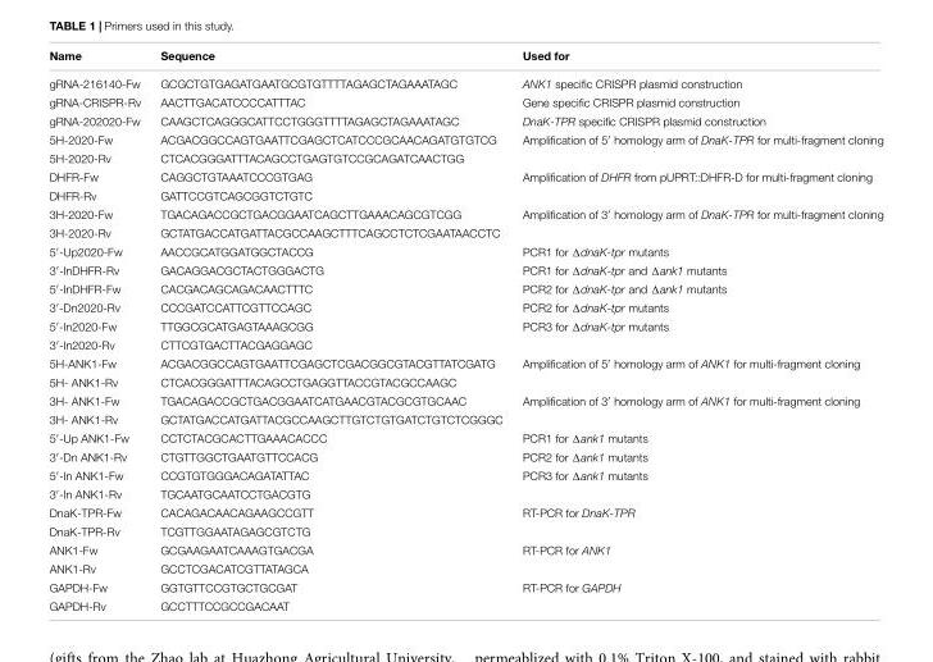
<table><thead><tr><td>Name</td><td>Sequence</td><td>Used for</td></tr></thead><tbody><tr><td>gRNA-216140-Fw</td><td>GCGCTGTGAGATGAATGCGTGTTTTAGAGCTAGAAATAGC</td><td>ANK1 specific CRISPR plasmid construction</td></tr><tr><td>gRNA-CRISPR-Rv</td><td>AACTTGACATCCCCATTTAC</td><td>Gene specific CRISPR plasmid construction</td></tr><tr><td>gRNA-202020-Fw</td><td>CAAGCTCAGGGCATTCCTGGGTTTTAGAGCTAGAAATAGC</td><td>DnaK-TPR specific CRISPR plasmid construction</td></tr><tr><td>5H-2020-Fw</td><td>ACGACGGCCAGTGAATTCGAGCTCATCCCGCAACAGATGTGTCG</td><td>Amplification of 5′ homology arm of DnaK-TPR for multi-fragment cloning</td></tr><tr><td>5H-2020-Rv</td><td>CTCACGGGATTTACAGCCTGAGTGTCCGCAGATCAACTGG</td><td></td></tr><tr><td>DHFR-Fw</td><td>CAGGCTGTAAATCCCGTGAG</td><td>Amplification of DHFR from pUPRT::DHFR-D for multi-fragment cloning</td></tr><tr><td>DHFR-Rv</td><td>GATTCCGTCAGCGGTCTGTC</td><td></td></tr><tr><td>3H-2020-Fw</td><td>TGACAGACCGCTGACGGAATCAGCTTGAAACAGCGTCGG</td><td>Amplification of 3′ homology arm of DnaK-TPR for multi-fragment cloning</td></tr><tr><td>3H-2020-Rv</td><td>GCTATGACCATGATTACGCCAAGCTTTCAGCCTCTCGAATAACCTC</td><td></td></tr><tr><td>5′-Up2020-Fw</td><td>AACCGCATGGATGGCTACCG</td><td>PCR1 for ΔdnaK-tpr mutants</td></tr><tr><td>3′-InDHFR-Rv</td><td>GACAGGACGCTACTGGGACTG</td><td>PCR1 for ΔdnaK-tpr and Δank1 mutants</td></tr><tr><td>5′-InDHFR-Fw</td><td>CACGACAGCAGACAACTTTC</td><td>PCR2 for ΔdnaK-tpr and Δank1 mutants</td></tr><tr><td>3′-Dn2020-Rv</td><td>CCCGATCCATTCGTTCCAGC</td><td>PCR2 for ΔdnaK-tpr mutants</td></tr><tr><td>5′-In2020-Fw</td><td>TTGGCGCATGAGTAAAGCGG</td><td>PCR3 for ΔdnaK-tpr mutants</td></tr><tr><td>3′-In2020-Rv</td><td>CTTCGTGACTTACGAGGAGC</td><td></td></tr><tr><td>5H-ANK1-Fw</td><td>ACGACGGCCAGTGAATTCGAGCTCGACGGCGTACGTTATCGATG</td><td>Amplification of 5′ homology arm of ANK1 for multi-fragment cloning</td></tr><tr><td>5H- ANK1-Rv</td><td>CTCACGGGATTTACAGCCTGAGGTTACCGTACGCCAAGC</td><td></td></tr><tr><td>3H- ANK1-Fw</td><td>TGACAGACCGCTGACGGAATCATGAACGTACGCGTGCAAC</td><td>Amplification of 3′ homology arm of ANK1 for multi-fragment cloning</td></tr><tr><td>3H- ANK1-Rv</td><td>GCTATGACCATGATTACGCCAAGCTTGTCTGTGATCTGTCTCGGGC</td><td></td></tr><tr><td>5′-Up ANK1-Fw</td><td>CCTCTACGCACTTGAAACACCC</td><td>PCR1 for Δank1 mutants</td></tr><tr><td>3′-Dn ANK1-Rv</td><td>CTGTTGGCTGAATGTTCCACG</td><td>PCR2 for Δank1 mutants</td></tr><tr><td>5′-In ANK1-Fw</td><td>CCGTGTGGGACAGATATTAC</td><td>PCR3 for Δank1 mutants</td></tr><tr><td>3′-In ANK1-Rv</td><td>TGCAATGCAATCCTGACGTG</td><td></td></tr><tr><td>DnaK-TPR-Fw</td><td>CACAGACAACAGAAGCCGTT</td><td>RT-PCR for DnaK-TPR</td></tr><tr><td>DnaK-TPR-Rv</td><td>TCGTTGGAATAGAGCGTCTG</td><td></td></tr><tr><td>ANK1-Fw</td><td>GCGAAGAATCAAAGTGACGA</td><td>RT-PCR for ANK1</td></tr><tr><td>ANK1-Rv</td><td>GCCTCGACATCGTTATAGCA</td><td></td></tr><tr><td>GAPDH-Fw</td><td>GGTGTTCCGTGCTGCGAT</td><td>RT-PCR for GAPDH</td></tr><tr><td>GAPDH-Rv</td><td>GCCTTTCCGCCGACAAT</td><td></td></tr></tbody></table>